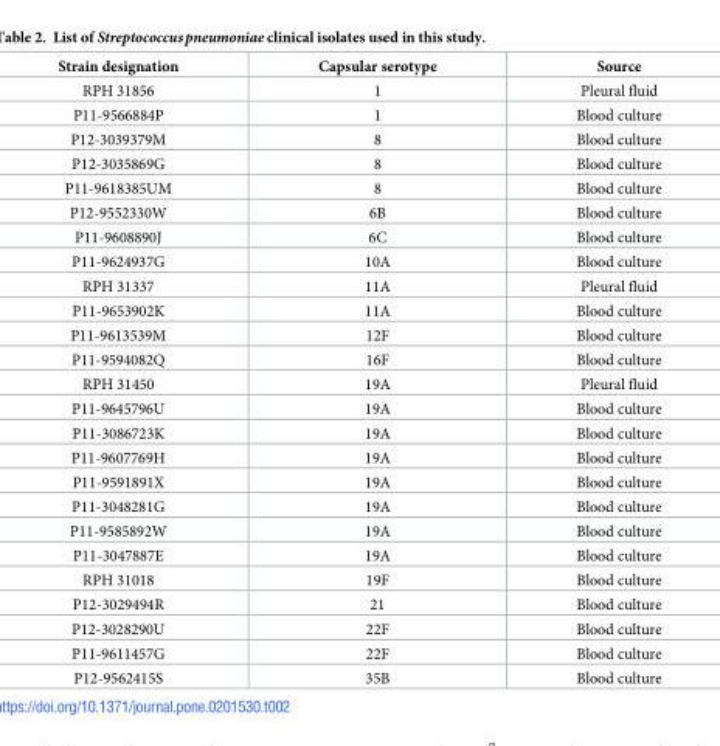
<table><thead><tr><td>Strain designation</td><td>Capsular serotype</td><td>Source</td></tr></thead><tbody><tr><td>RPH 31856</td><td>1</td><td>Pleural fluid</td></tr><tr><td>P11-9566884P</td><td>1</td><td>Blood culture</td></tr><tr><td>P12-3039379M</td><td>8</td><td>Blood culture</td></tr><tr><td>P12-3035869G</td><td>8</td><td>Blood culture</td></tr><tr><td>P11-9618385UM</td><td>8</td><td>Blood culture</td></tr><tr><td>P12-9552330W</td><td>6B</td><td>Blood culture</td></tr><tr><td>P11-9608890J</td><td>6C</td><td>Blood culture</td></tr><tr><td>P11-9624937G</td><td>10A</td><td>Blood culture</td></tr><tr><td>RPH 31337</td><td>11A</td><td>Pleural fluid</td></tr><tr><td>P11-9653902K</td><td>11A</td><td>Blood culture</td></tr><tr><td>P11-9613539M</td><td>12F</td><td>Blood culture</td></tr><tr><td>P11-9594082Q</td><td>16F</td><td>Blood culture</td></tr><tr><td>RPH 31450</td><td>19A</td><td>Pleural fluid</td></tr><tr><td>P11-9645796U</td><td>19A</td><td>Blood culture</td></tr><tr><td>P11-3086723K</td><td>19A</td><td>Blood culture</td></tr><tr><td>P11-9607769H</td><td>19A</td><td>Blood culture</td></tr><tr><td>P11-9591891X</td><td>19A</td><td>Blood culture</td></tr><tr><td>P11-3048281G</td><td>19A</td><td>Blood culture</td></tr><tr><td>P11-9585892W</td><td>19A</td><td>Blood culture</td></tr><tr><td>P11-3047887E</td><td>19A</td><td>Blood culture</td></tr><tr><td>RPH 31018</td><td>19F</td><td>Blood culture</td></tr><tr><td>P12-3029494R</td><td>21</td><td>Blood culture</td></tr><tr><td>P12-3028290U</td><td>22F</td><td>Blood culture</td></tr><tr><td>P11-9611457G</td><td>22F</td><td>Blood culture</td></tr><tr><td>P12-9562415S</td><td>35B</td><td>Blood culture</td></tr></tbody></table>